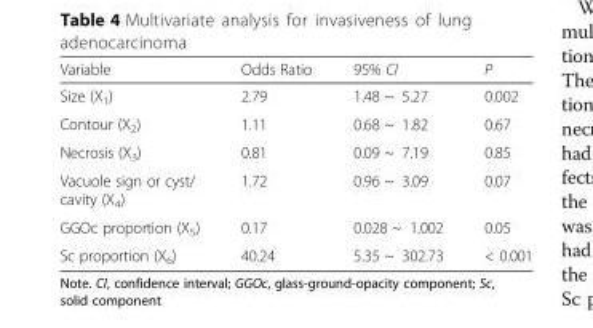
<table><thead><tr><td>Variable</td><td>Odds Ratio</td><td>95% CI</td><td>P</td></tr></thead><tbody><tr><td>Size (X<sub>1</sub>)</td><td>2.79</td><td>1.48 ~ 5.27</td><td>0.002</td></tr><tr><td>Contour (X<sub>2</sub>)</td><td>1.11</td><td>0.68 ~ 1.82</td><td>0.67</td></tr><tr><td>Necrosis (X<sub>3</sub>)</td><td>0.81</td><td>0.09 ~ 7.19</td><td>0.85</td></tr><tr><td>Vacuole sign or cyst/ cavity (X<sub>4</sub>)</td><td>1.72</td><td>0.96 ~ 3.09</td><td>0.07</td></tr><tr><td>GGOc proportion (X<sub>5</sub>)</td><td>0.17</td><td>0.028 ~ 1.002</td><td>0.05</td></tr><tr><td>Sc proportion (X<sub>6</sub>)</td><td>40.24</td><td>5.35 ~ 302.73</td><td>&lt; 0.001</td></tr></tbody></table>